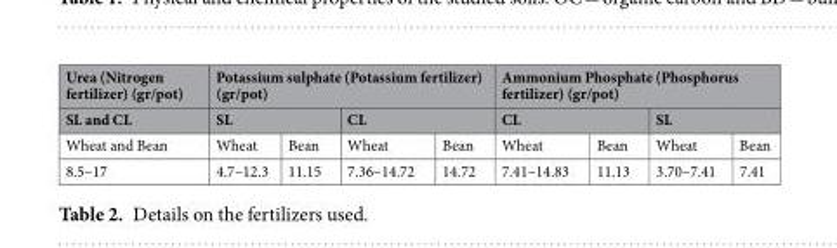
<table><thead><tr><td rowspan="3">Urea (Nitrogen fertilizer) (gr/pot) SL and CL Wheat and Bean</td><td colspan="4">Potassium sulphate (Potassium fertilizer) (gr/pot)</td><td colspan="4">Ammonium Phosphate (Phosphorus fertilizer) (gr/pot)</td></tr><tr><td colspan="2">SL</td><td colspan="2">CL</td><td colspan="2">CL</td><td colspan="2">SL</td></tr><tr><td>Wheat</td><td>Bean</td><td>Wheat</td><td>Bean</td><td>Wheat</td><td>Bean</td><td>Wheat</td><td>Bean</td></tr></thead><tbody><tr><td>8.5–17</td><td>4.7–12.3</td><td>11.15</td><td>7.36–14.72</td><td>14.72</td><td>7.41–14.83</td><td>11.13</td><td>3.70–7.41</td><td>7.41</td></tr></tbody></table>